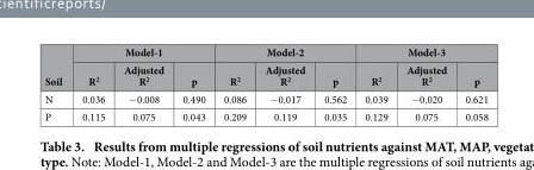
<table><thead><tr><td rowspan="2">Soil</td><td colspan="3">Model-1</td><td colspan="3">Model-2</td><td colspan="3">Model-3</td></tr><tr><td>R<sup>2</sup></td><td>Adjusted R<sup>2</sup></td><td>p</td><td>R<sup>2</sup></td><td>Adjusted R<sup>2</sup></td><td>p</td><td>R<sup>2</sup></td><td>Adjusted R<sup>2</sup></td><td>p</td></tr></thead><tbody><tr><td>N</td><td>0.036</td><td>− 0.008</td><td>0.490</td><td>0.086</td><td>− 0.017</td><td>0.562</td><td>0.039</td><td>− 0.020</td><td>0.621</td></tr><tr><td>P</td><td>0.115</td><td>0.075</td><td>0.043</td><td>0.209</td><td>0.119</td><td>0.035</td><td>0.129</td><td>0.075</td><td>0.058</td></tr></tbody></table>